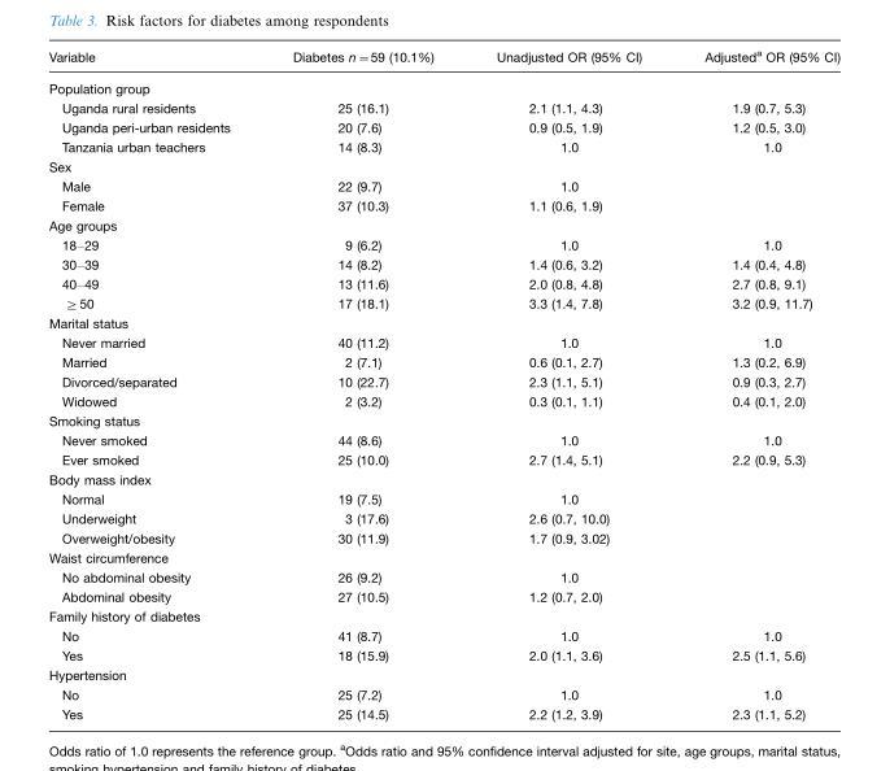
<table><thead><tr><td>Variable</td><td>Diabetes n=59 (10.1%)</td><td>Unadjusted OR (95% CI)</td><td>Adjusted<sup>a</sup> OR (95% CI)</td></tr></thead><tbody><tr><td colspan="4">Population group</td></tr><tr><td>Uganda rural residents</td><td>25 (16.1)</td><td>2.1 (1.1, 4.3)</td><td>1.9 (0.7, 5.3)</td></tr><tr><td>Uganda peri-urban residents</td><td>20 (7.6)</td><td>0.9 (0.5, 1.9)</td><td>1.2 (0.5, 3.0)</td></tr><tr><td>Tanzania urban teachers</td><td>14 (8.3)</td><td>1.0</td><td>1.0</td></tr><tr><td colspan="4">Sex</td></tr><tr><td>Male</td><td>22 (9.7)</td><td>1.0</td><td></td></tr><tr><td>Female</td><td>37 (10.3)</td><td>1.1 (0.6, 1.9)</td><td></td></tr><tr><td colspan="4">Age groups</td></tr><tr><td>18–29</td><td>9 (6.2)</td><td>1.0</td><td>1.0</td></tr><tr><td>30–39</td><td>14 (8.2)</td><td>1.4 (0.6, 3.2)</td><td>1.4 (0.4, 4.8)</td></tr><tr><td>40–49</td><td>13 (11.6)</td><td>2.0 (0.8, 4.8)</td><td>2.7 (0.8, 9.1)</td></tr><tr><td>≥50</td><td>17 (18.1)</td><td>3.3 (1.4, 7.8)</td><td>3.2 (0.9, 11.7)</td></tr><tr><td colspan="4">Marital status</td></tr><tr><td>Never married</td><td>40 (11.2)</td><td>1.0</td><td>1.0</td></tr><tr><td>Married</td><td>2 (7.1)</td><td>0.6 (0.1, 2.7)</td><td>1.3 (0.2, 6.9)</td></tr><tr><td>Divorced/separated</td><td>10 (22.7)</td><td>2.3 (1.1, 5.1)</td><td>0.9 (0.3, 2.7)</td></tr><tr><td>Widowed</td><td>2 (3.2)</td><td>0.3 (0.1, 1.1)</td><td>0.4 (0.1, 2.0)</td></tr><tr><td colspan="4">Smoking status</td></tr><tr><td>Never smoked</td><td>44 (8.6)</td><td>1.0</td><td>1.0</td></tr><tr><td>Ever smoked</td><td>25 (10.0)</td><td>2.7 (1.4, 5.1)</td><td>2.2 (0.9, 5.3)</td></tr><tr><td colspan="4">Body mass index</td></tr><tr><td>Normal</td><td>19 (7.5)</td><td>1.0</td><td></td></tr><tr><td>Underweight</td><td>3 (17.6)</td><td>2.6 (0.7, 10.0)</td><td></td></tr><tr><td>Overweight/obesity</td><td>30 (11.9)</td><td>1.7 (0.9, 3.02)</td><td></td></tr><tr><td colspan="4">Waist circumference</td></tr><tr><td>No abdominal obesity</td><td>26 (9.2)</td><td>1.0</td><td></td></tr><tr><td>Abdominal obesity</td><td>27 (10.5)</td><td>1.2 (0.7, 2.0)</td><td></td></tr><tr><td colspan="4">Family history of diabetes</td></tr><tr><td>No</td><td>41 (8.7)</td><td>1.0</td><td>1.0</td></tr><tr><td>Yes</td><td>18 (15.9)</td><td>2.0 (1.1, 3.6)</td><td>2.5 (1.1, 5.6)</td></tr><tr><td colspan="4">Hypertension</td></tr><tr><td>No</td><td>25 (7.2)</td><td>1.0</td><td>1.0</td></tr><tr><td>Yes</td><td>25 (14.5)</td><td>2.2 (1.2, 3.9)</td><td>2.3 (1.1, 5.2)</td></tr></tbody></table>